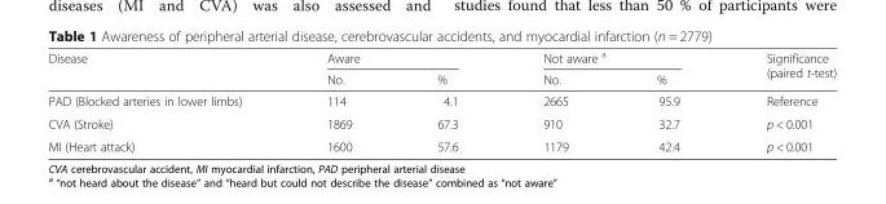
<table><thead><tr><td rowspan="2">Disease</td><td colspan="2">Aware</td><td colspan="2">Not aware <sup>a</sup></td><td rowspan="2">Significance (paired t-test)</td></tr><tr><td>No.</td><td>%</td><td>No.</td><td>%</td></tr></thead><tbody><tr><td>PAD (Blocked arteries in lower limbs)</td><td>114</td><td>4.1</td><td>2665</td><td>95.9</td><td>Reference</td></tr><tr><td>CVA (Stroke)</td><td>1869</td><td>67.3</td><td>910</td><td>32.7</td><td>p &lt; 0.001</td></tr><tr><td>MI (Heart attack)</td><td>1600</td><td>57.6</td><td>1179</td><td>42.4</td><td>p &lt; 0.001</td></tr></tbody></table>